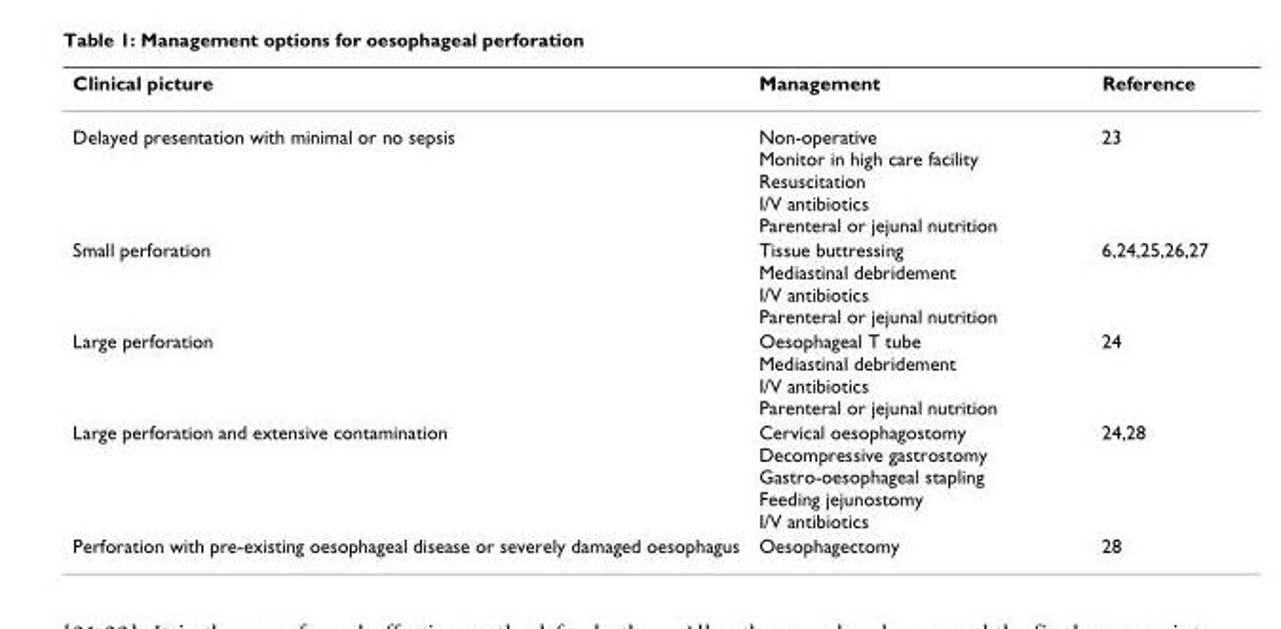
<table><thead><tr><td>Clinical picture</td><td>Management</td><td>Reference</td></tr></thead><tbody><tr><td>Delayed presentation with minimal or no sepsis</td><td>Non-operative Monitor in high care facility Resuscitation I/V antibiotics Parenteral or jejunal nutrition</td><td>23</td></tr><tr><td>Small perforation</td><td>Tissue buttressing Mediastinal debridement I/V antibiotics Parenteral or jejunal nutrition</td><td>6,24,25,26,27</td></tr><tr><td>Large perforation</td><td>Oesophageal T tube Mediastinal debridement I/V antibiotics Parenteral or jejunal nutrition</td><td>24</td></tr><tr><td>Large perforation and extensive contamination</td><td>Cervical oesophagostomy Decompressive gastrostomy Gastro-oesophageal stapling Feeding jejunostomy I/V antibiotics</td><td>24,28</td></tr><tr><td>Perforation with pre-existing oesophageal disease or severely damaged oesophagus</td><td>Oesophagectomy</td><td>28</td></tr></tbody></table>